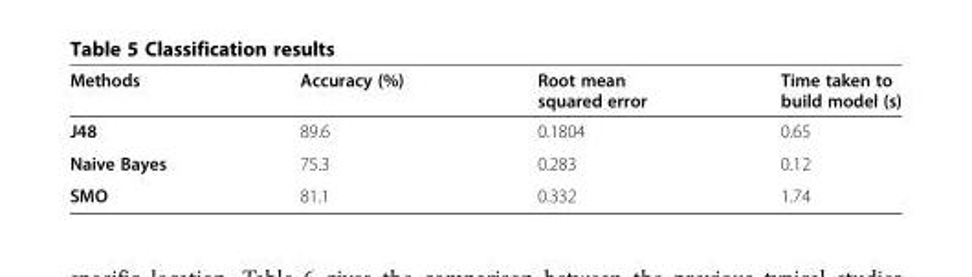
<table><thead><tr><td>Methods</td><td>Accuracy (%)</td><td>Root mean squared error</td><td>Time taken to build model (s)</td></tr></thead><tbody><tr><td>J48</td><td>89.6</td><td>0.1804</td><td>0.65</td></tr><tr><td>Naive Bayes</td><td>75.3</td><td>0.283</td><td>0.12</td></tr><tr><td>SMO</td><td>81.1</td><td>0.332</td><td>1.74</td></tr></tbody></table>